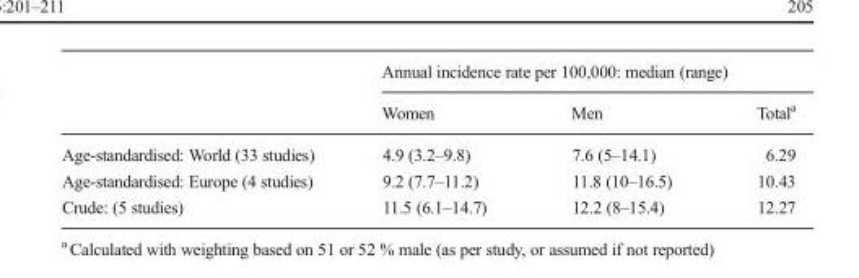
<table><thead><tr><td rowspan="2"></td><td colspan="3">Annual incidence rate per 100,000: median (range)</td></tr><tr><td>Women</td><td>Men</td><td>Total<sup>a</sup></td></tr></thead><tbody><tr><td>Age-standardised: World (33 studies)</td><td>4.9 (3.2–9.8)</td><td>7.6 (5–14.1)</td><td>6.29</td></tr><tr><td>Age-standardised: Europe (4 studies)</td><td>9.2 (7.7–11.2)</td><td>11.8 (10–16.5)</td><td>10.43</td></tr><tr><td>Crude: (5 studies)</td><td>11.5 (6.1–14.7)</td><td>12.2 (8–15.4)</td><td>12.27</td></tr></tbody></table>